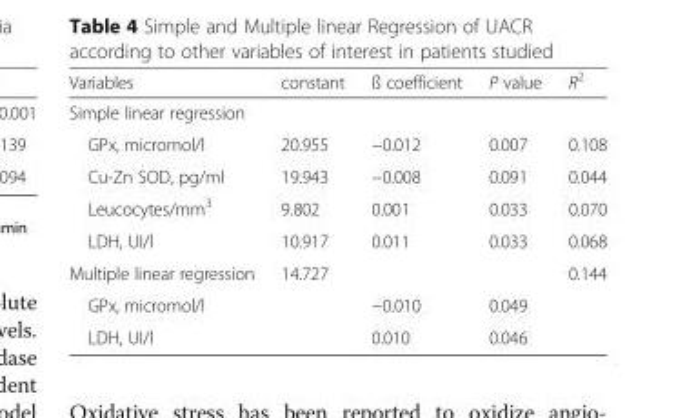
<table><thead><tr><td>Variables</td><td>constant</td><td>ß coefficient</td><td>P value</td><td>R<sup>2</sup></td></tr></thead><tbody><tr><td colspan="5">Simple linear regression</td></tr><tr><td>GPx, micromol/l</td><td>20.955</td><td>−0.012</td><td>0.007</td><td>0.108</td></tr><tr><td>Cu-Zn SOD, pg/ml</td><td>19.943</td><td>−0.008</td><td>0.091</td><td>0.044</td></tr><tr><td>Leucocytes/mm<sup>3</sup></td><td>9.802</td><td>0.001</td><td>0.033</td><td>0.070</td></tr><tr><td>LDH, UI/l</td><td>10.917</td><td>0.011</td><td>0.033</td><td>0.068</td></tr><tr><td>Multiple linear regression</td><td>14.727</td><td></td><td></td><td>0.144</td></tr><tr><td>GPx, micromol/l</td><td></td><td>−0.010</td><td>0.049</td><td></td></tr><tr><td>LDH, UI/l</td><td></td><td>0.010</td><td>0.046</td><td></td></tr></tbody></table>